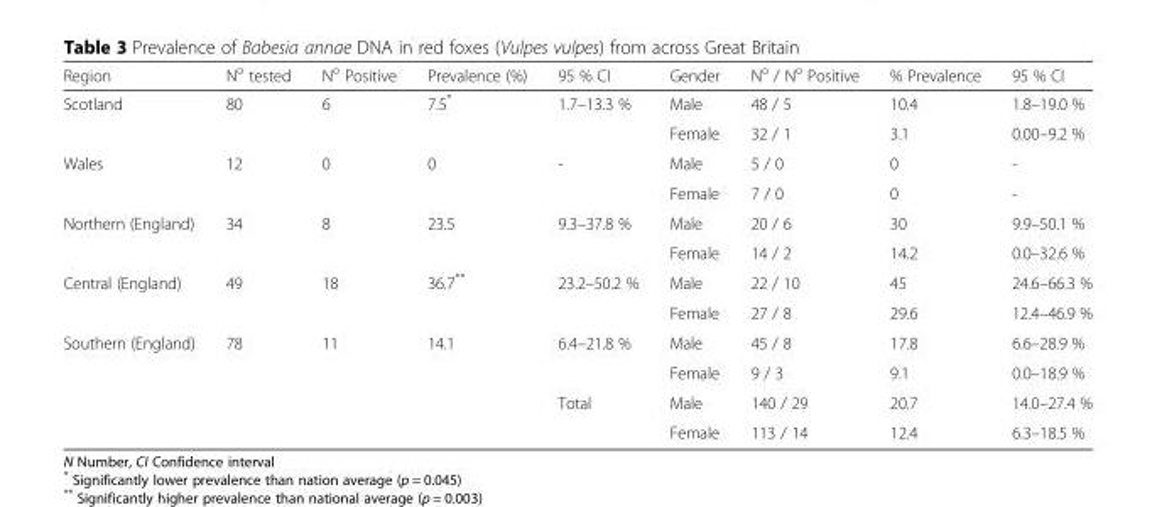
<table><thead><tr><td>Region</td><td>N<sup>o</sup> tested</td><td>N<sup>o</sup> Positive</td><td>Prevalence (%)</td><td>95 % CI</td><td>Gender</td><td>N<sup>o</sup> / N<sup>o</sup> Positive</td><td>% Prevalence</td><td>95 % CI</td></tr></thead><tbody><tr><td rowspan="2">Scotland</td><td rowspan="2">80</td><td rowspan="2">6</td><td rowspan="2">7.5*</td><td rowspan="2">1.7–13.3 %</td><td>Male</td><td>48 / 5</td><td>10.4</td><td>1.8–19.0 %</td></tr><tr><td>Female</td><td>32 / 1</td><td>3.1</td><td>0.00–9.2 %</td></tr><tr><td rowspan="2">Wales</td><td rowspan="2">12</td><td rowspan="2">0</td><td rowspan="2">0</td><td rowspan="2">-</td><td>Male</td><td>5 / 0</td><td>0</td><td>-</td></tr><tr><td>Female</td><td>7 / 0</td><td>0</td><td>-</td></tr><tr><td rowspan="2">Northern (England)</td><td rowspan="2">34</td><td rowspan="2">8</td><td rowspan="2">23.5</td><td rowspan="2">9.3–37.8 %</td><td>Male</td><td>20 / 6</td><td>30</td><td>9.9–50.1 %</td></tr><tr><td>Female</td><td>14 / 2</td><td>14.2</td><td>0.0–32.6 %</td></tr><tr><td rowspan="2">Central (England)</td><td rowspan="2">49</td><td rowspan="2">18</td><td rowspan="2">36.7**</td><td rowspan="2">23.2–50.2 %</td><td>Male</td><td>22 / 10</td><td>45</td><td>24.6–66.3 %</td></tr><tr><td>Female</td><td>27 / 8</td><td>29.6</td><td>12.4–46.9 %</td></tr><tr><td rowspan="4">Southern (England)</td><td rowspan="2">78</td><td rowspan="2">11</td><td rowspan="2">14.1</td><td rowspan="2">6.4–21.8 %</td><td>Male</td><td>45 / 8</td><td>17.8</td><td>6.6–28.9 %</td></tr><tr><td>Female</td><td>9 / 3</td><td>9.1</td><td>0.0–18.9 %</td></tr><tr><td rowspan="2"></td><td rowspan="2"></td><td rowspan="2"></td><td rowspan="2">Total</td><td>Male</td><td>140 / 29</td><td>20.7</td><td>14.0–27.4 %</td></tr><tr><td>Female</td><td>113 / 14</td><td>12.4</td><td>6.3–18.5 %</td></tr></tbody></table>